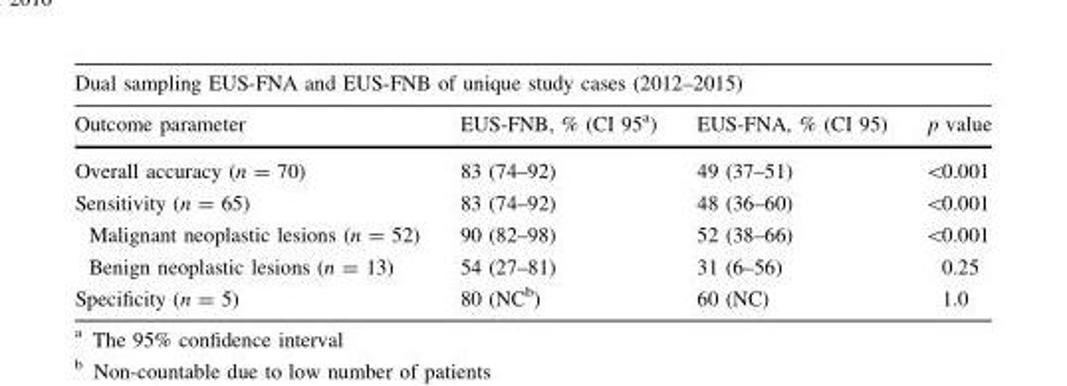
<table><thead><tr><td colspan="4">Dual sampling EUS-FNA and EUS-FNB of unique study cases (2012–2015)</td></tr><tr><td>Outcome parameter</td><td>EUS-FNB, % (CI 95<sup>a</sup>)</td><td>EUS-FNA, % (CI 95)</td><td>p value</td></tr></thead><tbody><tr><td>Overall accuracy (n = 70)</td><td>83 (74–92)</td><td>49 (37–51)</td><td>&lt;0.001</td></tr><tr><td>Sensitivity (n = 65)</td><td>83 (74–92)</td><td>48 (36–60)</td><td>&lt;0.001</td></tr><tr><td>Malignant neoplastic lesions (n = 52)</td><td>90 (82–98)</td><td>52 (38–66)</td><td>&lt;0.001</td></tr><tr><td>Benign neoplastic lesions (n = 13)</td><td>54 (27–81)</td><td>31 (6–56)</td><td>0.25</td></tr><tr><td>Specificity (n = 5)</td><td>80 (NC<sup>b</sup>)</td><td>60 (NC)</td><td>1.0</td></tr></tbody></table>